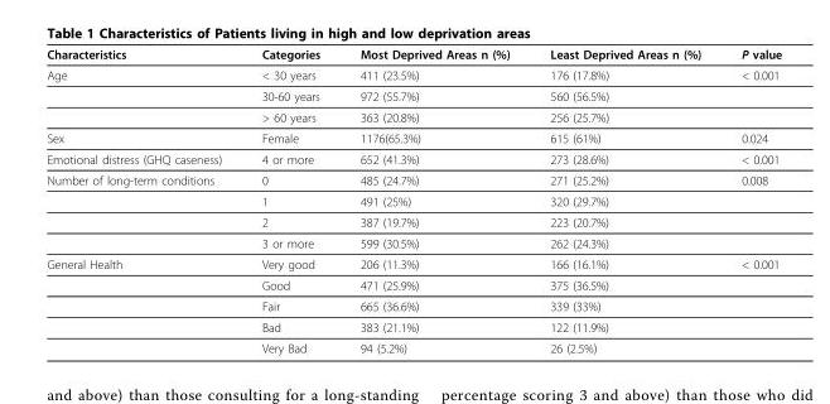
<table><thead><tr><td>Characteristics</td><td>Categories</td><td>Most Deprived Areas n (%)</td><td>Least Deprived Areas n (%)</td><td>P value</td></tr></thead><tbody><tr><td rowspan="3">Age</td><td>&lt; 30 years</td><td>411 (23.5%)</td><td>176 (17.8%)</td><td>&lt; 0.001</td></tr><tr><td>30-60 years</td><td>972 (55.7%)</td><td>560 (56.5%)</td><td></td></tr><tr><td>&gt; 60 years</td><td>363 (20.8%)</td><td>256 (25.7%)</td><td></td></tr><tr><td>Sex</td><td>Female</td><td>1176(65.3%)</td><td>615 (61%)</td><td>0.024</td></tr><tr><td>Emotional distress (GHQ caseness)</td><td>4 or more</td><td>652 (41.3%)</td><td>273 (28.6%)</td><td>&lt; 0.001</td></tr><tr><td rowspan="4">Number of long-term conditions</td><td>0</td><td>485 (24.7%)</td><td>271 (25.2%)</td><td>0.008</td></tr><tr><td>1</td><td>491 (25%)</td><td>320 (29.7%)</td><td></td></tr><tr><td>2</td><td>387 (19.7%)</td><td>223 (20.7%)</td><td></td></tr><tr><td>3 or more</td><td>599 (30.5%)</td><td>262 (24.3%)</td><td></td></tr><tr><td rowspan="5">General Health</td><td>Very good</td><td>206 (11.3%)</td><td>166 (16.1%)</td><td>&lt; 0.001</td></tr><tr><td>Good</td><td>471 (25.9%)</td><td>375 (36.5%)</td><td></td></tr><tr><td>Fair</td><td>665 (36.6%)</td><td>339 (33%)</td><td></td></tr><tr><td>Bad</td><td>383 (21.1%)</td><td>122 (11.9%)</td><td></td></tr><tr><td>Very Bad</td><td>94 (5.2%)</td><td>26 (2.5%)</td><td></td></tr></tbody></table>